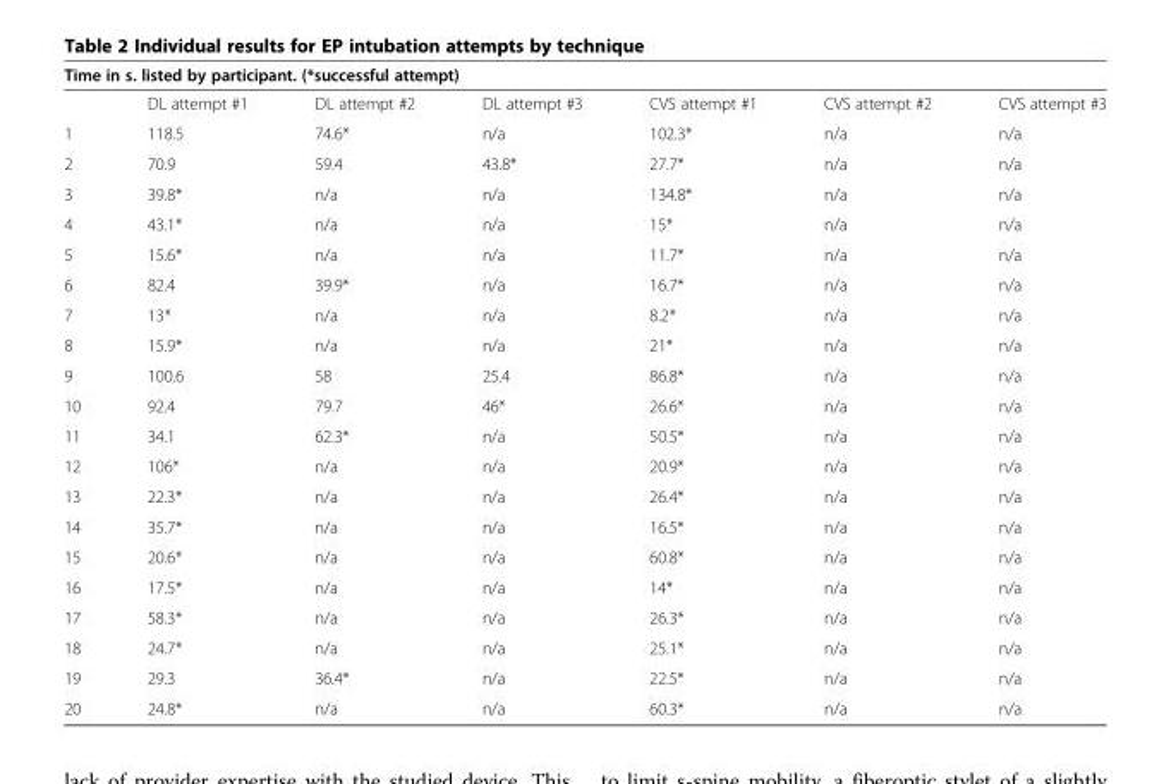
<table><thead><tr><td colspan="7">Time in s. listed by participant. (*successful attempt)</td></tr><tr><td></td><td>DL attempt #1</td><td>DL attempt #2</td><td>DL attempt #3</td><td>CVS attempt #1</td><td>CVS attempt #2</td><td>CVS attempt #3</td></tr></thead><tbody><tr><td>1</td><td>118.5</td><td>74.6*</td><td>n/a</td><td>102.3*</td><td>n/a</td><td>n/a</td></tr><tr><td>2</td><td>70.9</td><td>59.4</td><td>43.8*</td><td>27.7*</td><td>n/a</td><td>n/a</td></tr><tr><td>3</td><td>39.8*</td><td>n/a</td><td>n/a</td><td>134.8*</td><td>n/a</td><td>n/a</td></tr><tr><td>4</td><td>43.1*</td><td>n/a</td><td>n/a</td><td>15*</td><td>n/a</td><td>n/a</td></tr><tr><td>5</td><td>15.6*</td><td>n/a</td><td>n/a</td><td>11.7*</td><td>n/a</td><td>n/a</td></tr><tr><td>6</td><td>82.4</td><td>39.9*</td><td>n/a</td><td>16.7*</td><td>n/a</td><td>n/a</td></tr><tr><td>7</td><td>13*</td><td>n/a</td><td>n/a</td><td>8.2*</td><td>n/a</td><td>n/a</td></tr><tr><td>8</td><td>15.9*</td><td>n/a</td><td>n/a</td><td>21*</td><td>n/a</td><td>n/a</td></tr><tr><td>9</td><td>100.6</td><td>58</td><td>25.4</td><td>86.8*</td><td>n/a</td><td>n/a</td></tr><tr><td>10</td><td>92.4</td><td>79.7</td><td>46*</td><td>26.6*</td><td>n/a</td><td>n/a</td></tr><tr><td>11</td><td>34.1</td><td>62.3*</td><td>n/a</td><td>50.5*</td><td>n/a</td><td>n/a</td></tr><tr><td>12</td><td>106*</td><td>n/a</td><td>n/a</td><td>20.9*</td><td>n/a</td><td>n/a</td></tr><tr><td>13</td><td>22.3*</td><td>n/a</td><td>n/a</td><td>26.4*</td><td>n/a</td><td>n/a</td></tr><tr><td>14</td><td>35.7*</td><td>n/a</td><td>n/a</td><td>16.5*</td><td>n/a</td><td>n/a</td></tr><tr><td>15</td><td>20.6*</td><td>n/a</td><td>n/a</td><td>60.8*</td><td>n/a</td><td>n/a</td></tr><tr><td>16</td><td>17.5*</td><td>n/a</td><td>n/a</td><td>14*</td><td>n/a</td><td>n/a</td></tr><tr><td>17</td><td>58.3*</td><td>n/a</td><td>n/a</td><td>26.3*</td><td>n/a</td><td>n/a</td></tr><tr><td>18</td><td>24.7*</td><td>n/a</td><td>n/a</td><td>25.1*</td><td>n/a</td><td>n/a</td></tr><tr><td>19</td><td>29.3</td><td>36.4*</td><td>n/a</td><td>22.5*</td><td>n/a</td><td>n/a</td></tr><tr><td>20</td><td>24.8*</td><td>n/a</td><td>n/a</td><td>60.3*</td><td>n/a</td><td>n/a</td></tr></tbody></table>